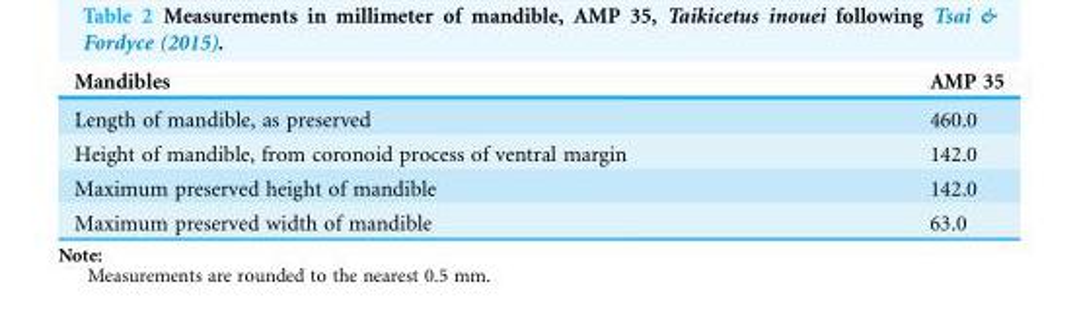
<table><thead><tr><td>Mandibles</td><td>AMP 35</td></tr></thead><tbody><tr><td>Length of mandible, as preserved</td><td>460.0</td></tr><tr><td>Height of mandible, from coronoid process of ventral margin</td><td>142.0</td></tr><tr><td>Maximum preserved height of mandible</td><td>142.0</td></tr><tr><td>Maximum preserved width of mandible</td><td>63.0</td></tr></tbody></table>